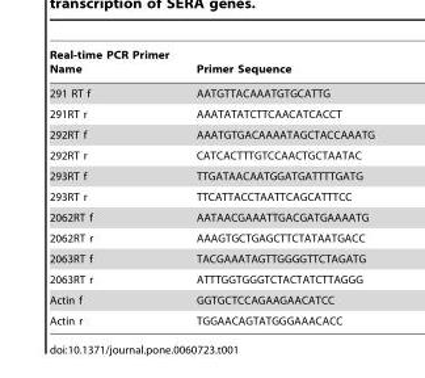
<table><thead><tr><td>Real-time PCR Primer Name</td><td>Primer Sequence</td></tr></thead><tbody><tr><td>291 RT f</td><td>AATGTTACAAATGTGCATTG</td></tr><tr><td>291RT r</td><td>AAATATATCTTCAACATCACCT</td></tr><tr><td>292RT f</td><td>AAATGTGACAAAATAGCTACCAAATG</td></tr><tr><td>292RT r</td><td>CATCACTTTGTCCAACTGCTAATAC</td></tr><tr><td>293RT f</td><td>TTGATAACAATGGATGATTTTGATG</td></tr><tr><td>293RT r</td><td>TTCATTACCTAATTCAGCATTTCC</td></tr><tr><td>2062RT f</td><td>AATAACGAAATTGACGATGAAAATG</td></tr><tr><td>2062RT r</td><td>AAAGTGCTGAGCTTCTATAATGACC</td></tr><tr><td>2063RT f</td><td>TACGAAATAGTTGGGGTTCTAGATG</td></tr><tr><td>2063RT r</td><td>ATTTGGTGGGTCTACTATCTTAGGG</td></tr><tr><td>Actin f</td><td>GGTGCTCCAGAAGAACATCC</td></tr><tr><td>Actin r</td><td>TGGAACAGTATGGGAAACACC</td></tr></tbody></table>